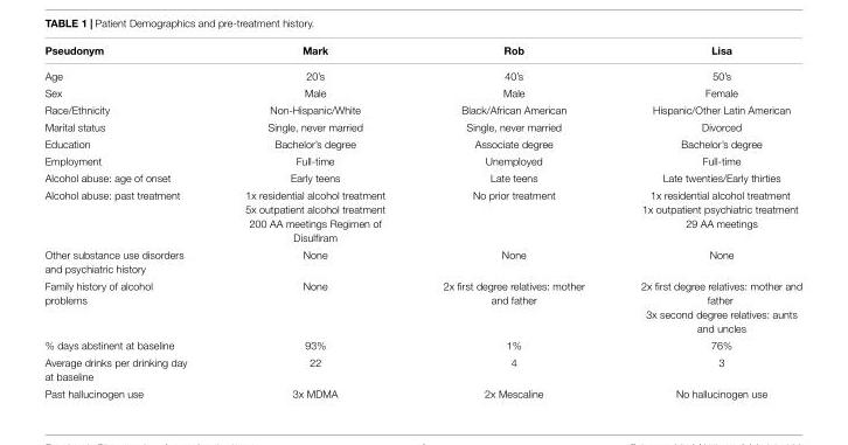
<table><thead><tr><td>Pseudonym</td><td>Mark</td><td>Rob</td><td>Lisa</td></tr></thead><tbody><tr><td>Age</td><td>20’s</td><td>40’s</td><td>50’s</td></tr><tr><td>Sex</td><td>Male</td><td>Male</td><td>Female</td></tr><tr><td>Race/Ethnicity</td><td>Non-Hispanic/White</td><td>Black/African American</td><td>Hispanic/Other Latin American</td></tr><tr><td>Marital status</td><td>Single, never married</td><td>Single, never married</td><td>Divorced</td></tr><tr><td>Education</td><td>Bachelor’s degree</td><td>Associate degree</td><td>Bachelor’s degree</td></tr><tr><td>Employment</td><td>Full-time</td><td>Unemployed</td><td>Full-time</td></tr><tr><td>Alcohol abuse: age of onset</td><td>Early teens</td><td>Late teens</td><td>Late twenties/Early thirties</td></tr><tr><td>Alcohol abuse: past treatment</td><td>1x residential alcohol treatment 5x outpatient alcohol treatment 200 AA meetings Regimen of Disulfiram</td><td>No prior treatment</td><td>1x residential alcohol treatment 1x outpatient psychiatric treatment 29 AA meetings</td></tr><tr><td>Other substance use disorders and psychiatric history</td><td>None</td><td>None</td><td>None</td></tr><tr><td>Family history of alcohol problems</td><td>None</td><td>2x first degree relatives: mother and father</td><td>2x first degree relatives: mother and father 3x second degree relatives: aunts and uncles</td></tr><tr><td>% days abstinent at baseline</td><td>93%</td><td>1%</td><td>76%</td></tr><tr><td>Average drinks per drinking day at baseline</td><td>22</td><td>4</td><td>3</td></tr><tr><td>Past hallucinogen use</td><td>3x MDMA</td><td>2x Mescaline</td><td>No hallucinogen use</td></tr></tbody></table>